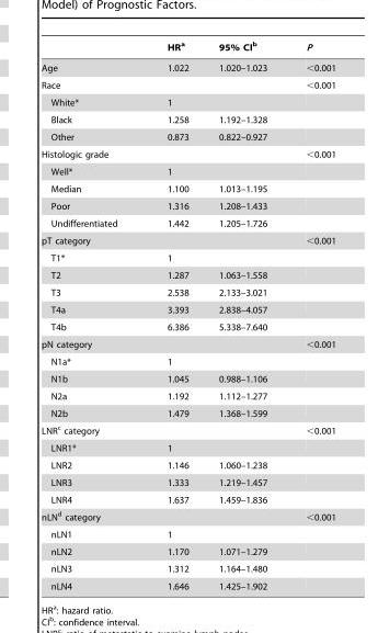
<table><thead><tr><td></td><td>HR<sup>a</sup></td><td>95% CI<sup>b</sup></td><td>P</td></tr></thead><tbody><tr><td>Age</td><td>1.022</td><td>1.020–1.023</td><td>&lt;0.001</td></tr><tr><td>Race</td><td></td><td></td><td>&lt;0.001</td></tr><tr><td>White*</td><td>1</td><td></td><td></td></tr><tr><td>Black</td><td>1.258</td><td>1.192–1.328</td><td></td></tr><tr><td>Other</td><td>0.873</td><td>0.822–0.927</td><td></td></tr><tr><td>Histologic grade</td><td></td><td></td><td>&lt;0.001</td></tr><tr><td>Well*</td><td>1</td><td></td><td></td></tr><tr><td>Median</td><td>1.100</td><td>1.013–1.195</td><td></td></tr><tr><td>Poor</td><td>1.316</td><td>1.208–1.433</td><td></td></tr><tr><td>Undifferentiated</td><td>1.442</td><td>1.205–1.726</td><td></td></tr><tr><td>pT category</td><td></td><td></td><td>&lt;0.001</td></tr><tr><td>T1*</td><td>1</td><td></td><td></td></tr><tr><td>T2</td><td>1.287</td><td>1.063–1.558</td><td></td></tr><tr><td>T3</td><td>2.538</td><td>2.133–3.021</td><td></td></tr><tr><td>T4a</td><td>3.393</td><td>2.838–4.057</td><td></td></tr><tr><td>T4b</td><td>6.386</td><td>5.338–7.640</td><td></td></tr><tr><td>pN category</td><td></td><td></td><td>&lt;0.001</td></tr><tr><td>N1a*</td><td>1</td><td></td><td></td></tr><tr><td>N1b</td><td>1.045</td><td>0.988–1.106</td><td></td></tr><tr><td>N2a</td><td>1.192</td><td>1.112–1.277</td><td></td></tr><tr><td>N2b</td><td>1.479</td><td>1.368–1.599</td><td></td></tr><tr><td>LNR<sup>c</sup> category</td><td></td><td></td><td>&lt;0.001</td></tr><tr><td>LNR1*</td><td>1</td><td></td><td></td></tr><tr><td>LNR2</td><td>1.146</td><td>1.060–1.238</td><td></td></tr><tr><td>LNR3</td><td>1.333</td><td>1.219–1.457</td><td></td></tr><tr><td>LNR4</td><td>1.637</td><td>1.459–1.836</td><td></td></tr><tr><td>nLN<sup>d</sup> category</td><td></td><td></td><td>&lt;0.001</td></tr><tr><td>nLN1</td><td>1</td><td></td><td></td></tr><tr><td>nLN2</td><td>1.170</td><td>1.071–1.279</td><td></td></tr><tr><td>nLN3</td><td>1.312</td><td>1.164–1.480</td><td></td></tr><tr><td>nLN4</td><td>1.646</td><td>1.425–1.902</td><td></td></tr></tbody></table>